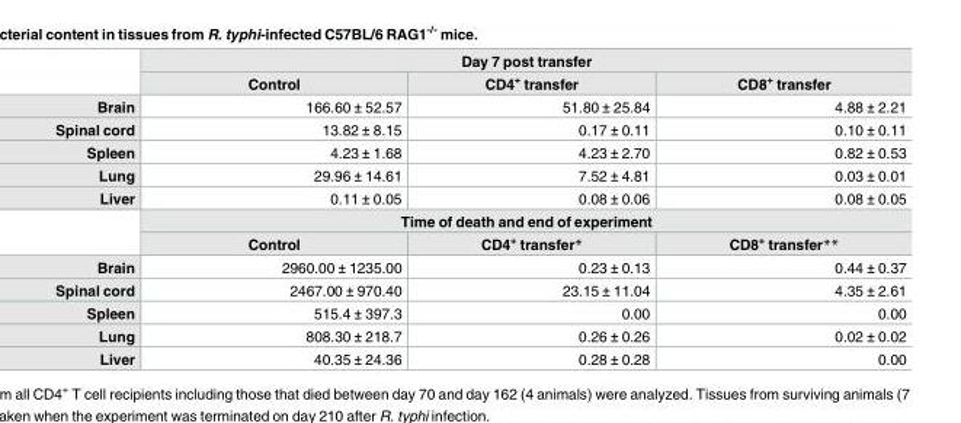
<table><thead><tr><td rowspan="2"></td><td colspan="3">Day 7 post transfer</td></tr><tr><td>Control</td><td>CD4<sup>+</sup> transfer</td><td>CD8<sup>+</sup> transfer</td></tr></thead><tbody><tr><td>Brain</td><td>166.60 ± 52.57</td><td>51.80 ± 25.84</td><td>4.88 ± 2.21</td></tr><tr><td>Spinal cord</td><td>13.82 ± 8.15</td><td>0.17 ± 0.11</td><td>0.10 ± 0.11</td></tr><tr><td>Spleen</td><td>4.23 ± 1.68</td><td>4.23 ± 2.70</td><td>0.82 ± 0.53</td></tr><tr><td>Lung</td><td>29.96 ± 14.61</td><td>7.52 ± 4.81</td><td>0.03 ± 0.01</td></tr><tr><td rowspan="3">Liver</td><td>0.11 ± 0.05</td><td>0.08 ± 0.06</td><td>0.08 ± 0.05</td></tr><tr><td colspan="3">Time of death and end of experiment</td></tr><tr><td>Control</td><td>CD4<sup>+</sup> transfer*</td><td>CD8<sup>+</sup> transfer**</td></tr><tr><td>Brain</td><td>2960.00 ± 1235.00</td><td>0.23 ± 0.13</td><td>0.44 ± 0.37</td></tr><tr><td>Spinal cord</td><td>2467.00 ± 970.40</td><td>23.15 ± 11.04</td><td>4.35 ± 2.61</td></tr><tr><td>Spleen</td><td>515.4 ± 397.3</td><td>0.00</td><td>0.00</td></tr><tr><td>Lung</td><td>808.30 ± 218.7</td><td>0.26 ± 0.26</td><td>0.02 ± 0.02</td></tr><tr><td>Liver</td><td>40.35 ± 24.36</td><td>0.28 ± 0.28</td><td>0.00</td></tr></tbody></table>